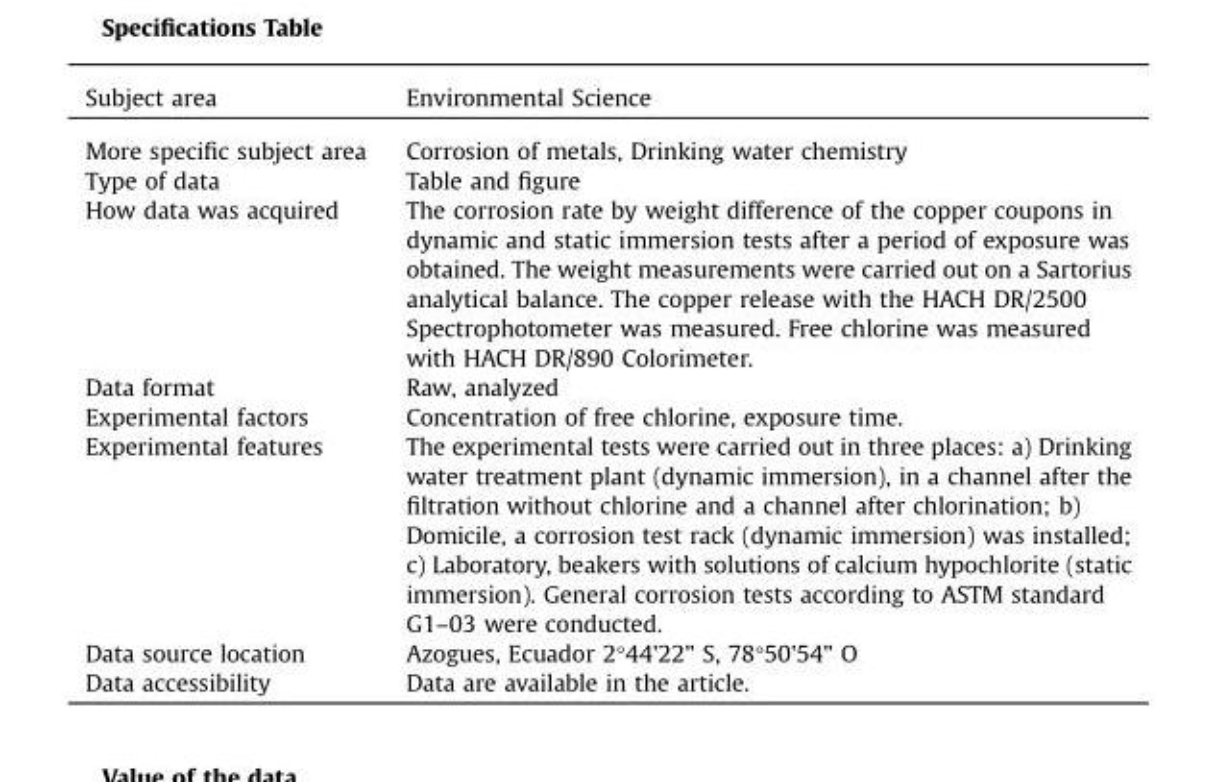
<table><thead><tr><td>Subject area</td><td>Environmental Science</td></tr></thead><tbody><tr><td>More specific subject area</td><td>Corrosion of metals, Drinking water chemistry</td></tr><tr><td>Type of data</td><td>Table and figure</td></tr><tr><td>How data was acquired</td><td>The corrosion rate by weight difference of the copper coupons in dynamic and static immersion tests after a period of exposure was obtained. The weight measurements were carried out on a Sartorius analytical balance. The copper release with the HACH DR/2500 Spectrophotometer was measured. Free chlorine was measured with HACH DR/890 Colorimeter.</td></tr><tr><td>Data format</td><td>Raw, analyzed</td></tr><tr><td>Experimental factors</td><td>Concentration of free chlorine, exposure time.</td></tr><tr><td>Experimental features</td><td>The experimental tests were carried out in three places: a) Drinking water treatment plant (dynamic immersion), in a channel after the filtration without chlorine and a channel after chlorination; b) Domicile, a corrosion test rack (dynamic immersion) was installed; c) Laboratory, beakers with solutions of calcium hypochlorite (static immersion). General corrosion tests according to ASTM standard G1–03 were conducted.</td></tr><tr><td>Data source location</td><td>Azogues, Ecuador 2°44&#x27;22&quot; S, 78°50&#x27;54&quot; O</td></tr><tr><td>Data accessibility</td><td>Data are available in the article.</td></tr></tbody></table>